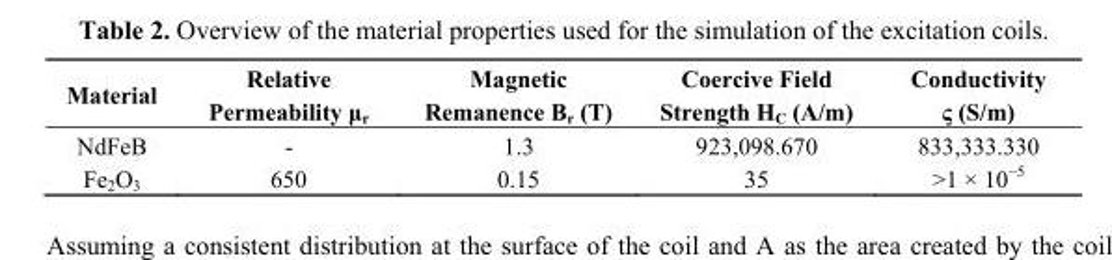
<table><thead><tr><td>Material</td><td>Relative Permeability μ<sub>r</sub></td><td>Magnetic Remanence B<sub>r</sub> (T)</td><td>Coercive Field Strength H<sub>C</sub> (A/m)</td><td>Conductivity ς (S/m)</td></tr></thead><tbody><tr><td>NdFeB</td><td>-</td><td>1.3</td><td>923,098.670</td><td>833,333.330</td></tr><tr><td>Fe<sub>2</sub>O<sub>3</sub></td><td>650</td><td>0.15</td><td>35</td><td>&gt;1 × 10<sup>−5</sup></td></tr></tbody></table>